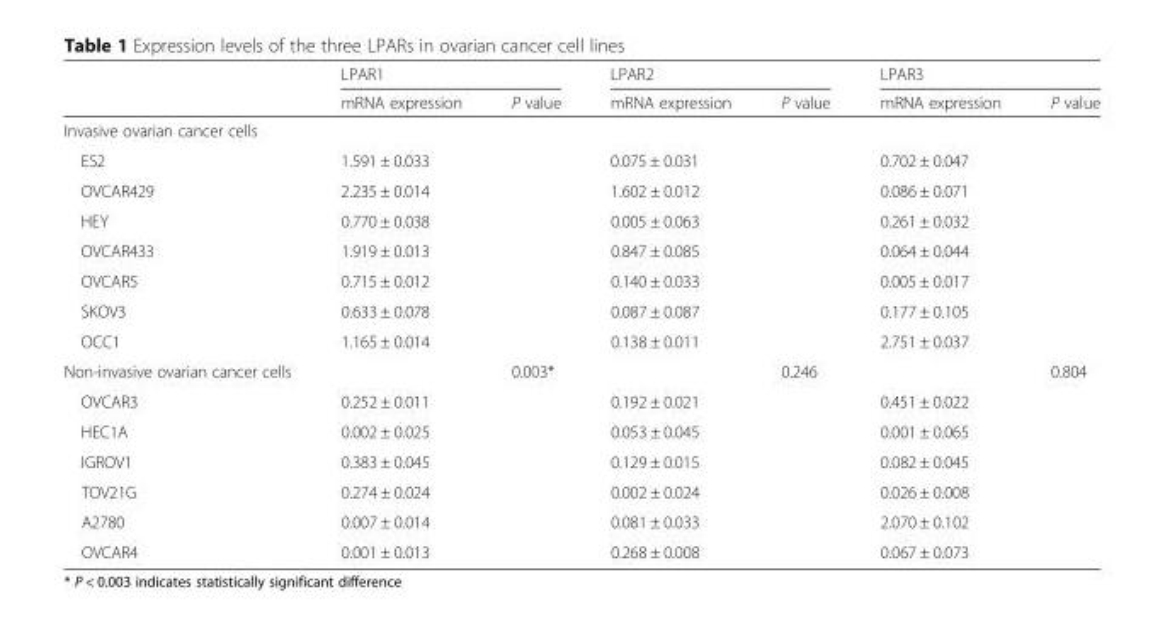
<table><thead><tr><td rowspan="2"></td><td colspan="2">LPAR1</td><td colspan="2">LPAR2</td><td colspan="2">LPAR3</td></tr><tr><td>mRNA expression</td><td>P value</td><td>mRNA expression</td><td>P value</td><td>mRNA expression</td><td>P value</td></tr></thead><tbody><tr><td colspan="7">Invasive ovarian cancer cells</td></tr><tr><td>ES2</td><td>1.591 ± 0.033</td><td></td><td>0.075 ± 0.031</td><td></td><td>0.702 ± 0.047</td><td></td></tr><tr><td>OVCAR429</td><td>2.235 ± 0.014</td><td></td><td>1.602 ± 0.012</td><td></td><td>0.086 ± 0.071</td><td></td></tr><tr><td>HEY</td><td>0.770 ± 0.038</td><td></td><td>0.005 ± 0.063</td><td></td><td>0.261 ± 0.032</td><td></td></tr><tr><td>OVCAR433</td><td>1.919 ± 0.013</td><td></td><td>0.847 ± 0.085</td><td></td><td>0.064 ± 0.044</td><td></td></tr><tr><td>OVCAR5</td><td>0.715 ± 0.012</td><td></td><td>0.140 ± 0.033</td><td></td><td>0.005 ± 0.017</td><td></td></tr><tr><td>SKOV3</td><td>0.633 ± 0.078</td><td></td><td>0.087 ± 0.087</td><td></td><td>0.177 ± 0.105</td><td></td></tr><tr><td>OCC1</td><td>1.165 ± 0.014</td><td></td><td>0.138 ± 0.011</td><td></td><td>2.751 ± 0.037</td><td></td></tr><tr><td>Non-invasive ovarian cancer cells</td><td></td><td>0.003*</td><td></td><td>0.246</td><td></td><td>0.804</td></tr><tr><td>OVCAR3</td><td>0.252 ± 0.011</td><td></td><td>0.192 ± 0.021</td><td></td><td>0.451 ± 0.022</td><td></td></tr><tr><td>HEC1A</td><td>0.002 ± 0.025</td><td></td><td>0.053 ± 0.045</td><td></td><td>0.001 ± 0.065</td><td></td></tr><tr><td>IGROV1</td><td>0.383 ± 0.045</td><td></td><td>0.129 ± 0.015</td><td></td><td>0.082 ± 0.045</td><td></td></tr><tr><td>TOV21G</td><td>0.274 ± 0.024</td><td></td><td>0.002 ± 0.024</td><td></td><td>0.026 ± 0.008</td><td></td></tr><tr><td>A2780</td><td>0.007 ± 0.014</td><td></td><td>0.081 ± 0.033</td><td></td><td>2.070 ± 0.102</td><td></td></tr><tr><td>OVCAR4</td><td>0.001 ± 0.013</td><td></td><td>0.268 ± 0.008</td><td></td><td>0.067 ± 0.073</td><td></td></tr></tbody></table>